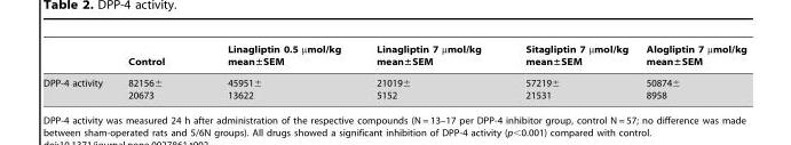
<table><thead><tr><td></td><td>Control</td><td>Linagliptin 0.5 µmol/kg mean±SEM</td><td>Linagliptin 7 µmol/kg mean±SEM</td><td>Sitagliptin 7 µmol/kg mean±SEM</td><td>Alogliptin 7 µmol/kg mean±SEM</td></tr></thead><tbody><tr><td>DPP-4 activity</td><td>82156± 20673</td><td>45951± 13622</td><td>21019± 5152</td><td>57219± 21531</td><td>50874± 8958</td></tr></tbody></table>